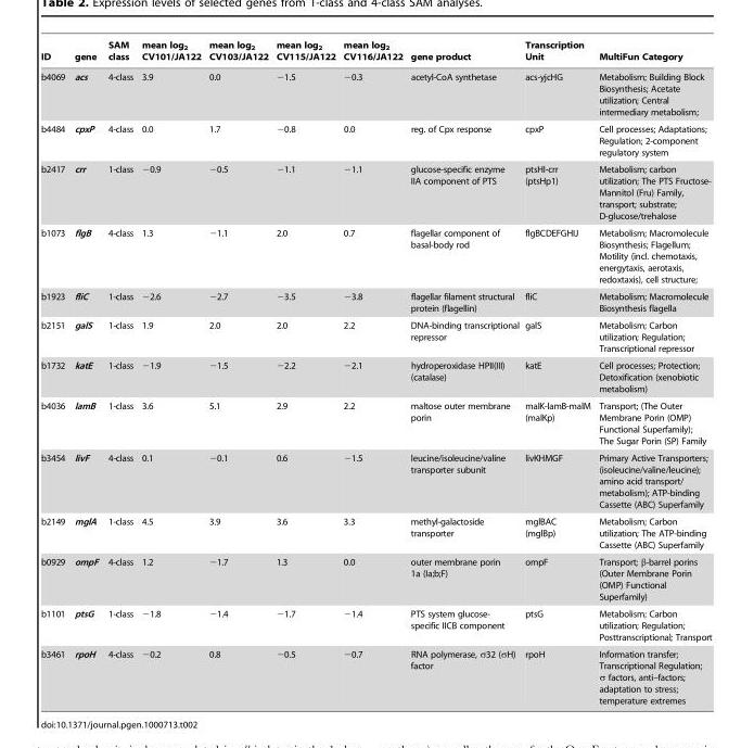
<table><thead><tr><td>ID</td><td>gene</td><td>SAM class</td><td>mean log<sub>2</sub> CV101/JA122</td><td>mean log<sub>2</sub> CV103/JA122</td><td>mean log<sub>2</sub> CV115/JA122</td><td>mean log<sub>2</sub> CV116/JA122</td><td>gene product</td><td>Transcription Unit</td><td>MultiFun Category</td></tr></thead><tbody><tr><td>b4069</td><td>acs</td><td>4-class</td><td>3.9</td><td>0.0</td><td>−1.5</td><td>−0.3</td><td>acetyl-CoA synthetase</td><td>acs-yjcHG</td><td>Metabolism; Building Block Biosynthesis; Acetate utilization; Central intermediary metabolism;</td></tr><tr><td>b4484</td><td>cpxP</td><td>4-class</td><td>0.0</td><td>1.7</td><td>−0.8</td><td>0.0</td><td>reg. of Cpx response</td><td>cpxP</td><td>Cell processes; Adaptations; Regulation; 2-component regulatory system</td></tr><tr><td>b2417</td><td>crr</td><td>1-class</td><td>−0.9</td><td>−0.5</td><td>−1.1</td><td>−1.1</td><td>glucose-specific enzyme IIA component of PTS</td><td>ptsHI-crr (ptsHp1)</td><td>Metabolism; carbon utilization; The PTS Fructose- Mannitol (Fru) Family, transport; substrate; D-glucose/trehalose</td></tr><tr><td>b1073</td><td>flgB</td><td>4-class</td><td>1.3</td><td>−1.1</td><td>2.0</td><td>0.7</td><td>flagellar component of basal-body rod</td><td>flgBCDEFGHIJ</td><td>Metabolism; Macromolecule Biosynthesis; Flagellum; Motility (incl. chemotaxis, energytaxis, aerotaxis, redoxtaxis), cell structure;</td></tr><tr><td>b1923</td><td>fliC</td><td>1-class</td><td>−2.6</td><td>−2.7</td><td>−3.5</td><td>−3.8</td><td>flagellar filament structural protein (flagellin)</td><td>fliC</td><td>Metabolism; Macromolecule Biosynthesis flagella</td></tr><tr><td>b2151</td><td>galS</td><td>1-class</td><td>1.9</td><td>2.0</td><td>2.0</td><td>2.2</td><td>DNA-binding transcriptional repressor</td><td>galS</td><td>Metabolism; Carbon utilization; Regulation; Transcriptional repressor</td></tr><tr><td>b1732</td><td>katE</td><td>1-class</td><td>−1.9</td><td>−1.5</td><td>−2.2</td><td>−2.1</td><td>hydroperoxidase HPII(III) (catalase)</td><td>katE</td><td>Cell processes; Protection; Detoxification (xenobiotic metabolism)</td></tr><tr><td>b4036</td><td>lamB</td><td>1-class</td><td>3.6</td><td>5.1</td><td>2.9</td><td>2.2</td><td>maltose outer membrane porin</td><td>malK-lamB-malM (malKp)</td><td>Transport; (The Outer Membrane Porin (OMP) Functional Superfamily); The Sugar Porin (SP) Family</td></tr><tr><td>b3454</td><td>livF</td><td>4-class</td><td>0.1</td><td>−0.1</td><td>0.6</td><td>−1.5</td><td>leucine/isoleucine/valine transporter subunit</td><td>livKHMGF</td><td>Primary Active Transporters; (isoleucine/valine/leucine); amino acid transport/ metabolism); ATP-binding Cassette (ABC) Superfamily</td></tr><tr><td>b2149</td><td>mglA</td><td>1-class</td><td>4.5</td><td>3.9</td><td>3.6</td><td>3.3</td><td>methyl-galactoside transporter</td><td>mglBAC (mglBp)</td><td>Metabolism; Carbon utilization; The ATP-binding Cassette (ABC) Superfamily</td></tr><tr><td>b0929</td><td>ompF</td><td>4-class</td><td>1.2</td><td>−1.7</td><td>1.3</td><td>0.0</td><td>outer membrane porin 1a (Ia;b;F)</td><td>ompF</td><td>Transport; β-barrel porins (Outer Membrane Porin (OMP) Functional Superfamily)</td></tr><tr><td>b1101</td><td>ptsG</td><td>1-class</td><td>−1.8</td><td>−1.4</td><td>−1.7</td><td>−1.4</td><td>PTS system glucose- specific IICB component</td><td>ptsG</td><td>Metabolism; Carbon utilization; Regulation; Posttranscriptional; Transport</td></tr><tr><td>b3461</td><td>rpoH</td><td>4-class</td><td>−0.2</td><td>0.8</td><td>−0.5</td><td>−0.7</td><td>RNA polymerase, σ32 (σH) factor</td><td>rpoH</td><td>Information transfer; Transcriptional Regulation; σ factors, anti–factors; adaptation to stress; temperature extremes</td></tr></tbody></table>